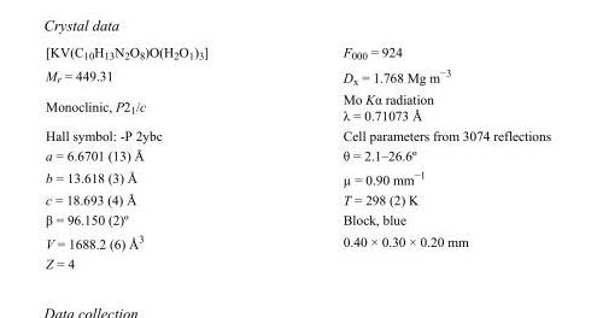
<table><tbody><tr><td>[KV(C<sub>10</sub>H<sub>13</sub>N<sub>2</sub>O<sub>8</sub>)O(H<sub>2</sub>O<sub>1</sub>)<sub>3</sub>]</td><td>F<sub>000</sub> = 924</td></tr><tr><td>M<sub>r</sub> = 449.31</td><td>D<sub>x</sub> = 1.768 Mg m<sup>−3</sup></td></tr><tr><td>Monoclinic, P2<sub>1</sub>/c</td><td>Mo Kα radiation λ = 0.71073 Å</td></tr><tr><td>Hall symbol: -P 2ybc</td><td>Cell parameters from 3074 reflections</td></tr><tr><td>a = 6.6701 (13) Å</td><td>θ = 2.1–26.6º</td></tr><tr><td>b = 13.618 (3) Å</td><td>µ = 0.90 mm<sup>−1</sup></td></tr><tr><td>c = 18.693 (4) Å</td><td>T = 298 (2) K</td></tr><tr><td>β = 96.150 (2)º</td><td>Block, blue</td></tr><tr><td>V = 1688.2 (6) Å<sup>3</sup></td><td>0.40 × 0.30 × 0.20 mm</td></tr><tr><td>Z = 4</td><td></td></tr></tbody></table>